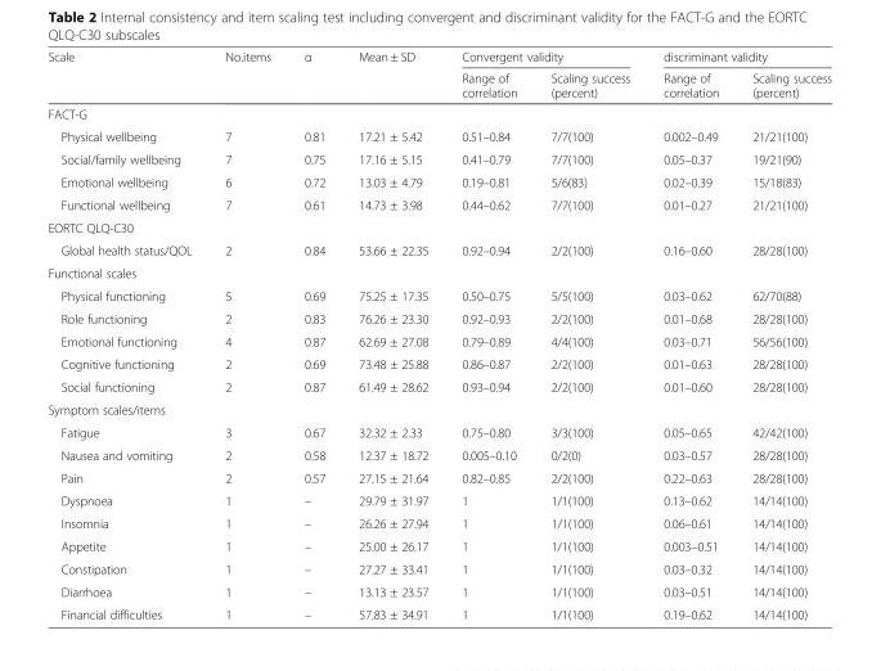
<table><thead><tr><td rowspan="2">Scale</td><td rowspan="2">No.items</td><td rowspan="2">α</td><td rowspan="2">Mean ± SD</td><td colspan="2">Convergent validity</td><td colspan="2">discriminant validity</td></tr><tr><td>Range of correlation</td><td>Scaling success (percent)</td><td>Range of correlation</td><td>Scaling success (percent)</td></tr></thead><tbody><tr><td colspan="8">FACT-G</td></tr><tr><td>Physical wellbeing</td><td>7</td><td>0.81</td><td>17.21 ± 5.42</td><td>0.51–0.84</td><td>7/7(100)</td><td>0.002–0.49</td><td>21/21(100)</td></tr><tr><td>Social/family wellbeing</td><td>7</td><td>0.75</td><td>17.16 ± 5.15</td><td>0.41–0.79</td><td>7/7(100)</td><td>0.05–0.37</td><td>19/21(90)</td></tr><tr><td>Emotional wellbeing</td><td>6</td><td>0.72</td><td>13.03 ± 4.79</td><td>0.19–0.81</td><td>5/6(83)</td><td>0.02–0.39</td><td>15/18(83)</td></tr><tr><td>Functional wellbeing</td><td>7</td><td>0.61</td><td>14.73 ± 3.98</td><td>0.44–0.62</td><td>7/7(100)</td><td>0.01–0.27</td><td>21/21(100)</td></tr><tr><td colspan="8">EORTC QLQ-C30</td></tr><tr><td>Global health status/QOL</td><td>2</td><td>0.84</td><td>53.66 ± 22.35</td><td>0.92–0.94</td><td>2/2(100)</td><td>0.16–0.60</td><td>28/28(100)</td></tr><tr><td colspan="8">Functional scales</td></tr><tr><td>Physical functioning</td><td>5</td><td>0.69</td><td>75.25 ± 17.35</td><td>0.50–0.75</td><td>5/5(100)</td><td>0.03–0.62</td><td>62/70(88)</td></tr><tr><td>Role functioning</td><td>2</td><td>0.83</td><td>76.26 ± 23.30</td><td>0.92–0.93</td><td>2/2(100)</td><td>0.01–0.68</td><td>28/28(100)</td></tr><tr><td>Emotional functioning</td><td>4</td><td>0.87</td><td>62.69 ± 27.08</td><td>0.79–0.89</td><td>4/4(100)</td><td>0.03–0.71</td><td>56/56(100)</td></tr><tr><td>Cognitive functioning</td><td>2</td><td>0.69</td><td>73.48 ± 25.88</td><td>0.86–0.87</td><td>2/2(100)</td><td>0.01–0.63</td><td>28/28(100)</td></tr><tr><td>Social functioning</td><td>2</td><td>0.87</td><td>61.49 ± 28.62</td><td>0.93–0.94</td><td>2/2(100)</td><td>0.01–0.60</td><td>28/28(100)</td></tr><tr><td colspan="8">Symptom scales/items</td></tr><tr><td>Fatigue</td><td>3</td><td>0.67</td><td>32.32 ± 2.33</td><td>0.75–0.80</td><td>3/3(100)</td><td>0.05–0.65</td><td>42/42(100)</td></tr><tr><td>Nausea and vomiting</td><td>2</td><td>0.58</td><td>12.37 ± 18.72</td><td>0.005–0.10</td><td>0/2(0)</td><td>0.03–0.57</td><td>28/28(100)</td></tr><tr><td>Pain</td><td>2</td><td>0.57</td><td>27.15 ± 21.64</td><td>0.82–0.85</td><td>2/2(100)</td><td>0.22–0.63</td><td>28/28(100)</td></tr><tr><td>Dyspnoea</td><td>1</td><td>–</td><td>29.79 ± 31.97</td><td>1</td><td>1/1(100)</td><td>0.13–0.62</td><td>14/14(100)</td></tr><tr><td>Insomnia</td><td>1</td><td>–</td><td>26.26 ± 27.94</td><td>1</td><td>1/1(100)</td><td>0.06–0.61</td><td>14/14(100)</td></tr><tr><td>Appetite</td><td>1</td><td>–</td><td>25.00 ± 26.17</td><td>1</td><td>1/1(100)</td><td>0.003–0.51</td><td>14/14(100)</td></tr><tr><td>Constipation</td><td>1</td><td>–</td><td>27.27 ± 33.41</td><td>1</td><td>1/1(100)</td><td>0.03–0.32</td><td>14/14(100)</td></tr><tr><td>Diarrhoea</td><td>1</td><td>–</td><td>13.13 ± 23.57</td><td>1</td><td>1/1(100)</td><td>0.03–0.51</td><td>14/14(100)</td></tr><tr><td>Financial difficulties</td><td>1</td><td>–</td><td>57.83 ± 34.91</td><td>1</td><td>1/1(100)</td><td>0.19–0.62</td><td>14/14(100)</td></tr></tbody></table>